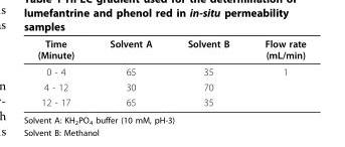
<table><thead><tr><td>Time (Minute)</td><td>Solvent A</td><td>Solvent B</td><td>Flow rate (mL/min)</td></tr></thead><tbody><tr><td>0 - 4</td><td>65</td><td>35</td><td>1</td></tr><tr><td>4 - 12</td><td>30</td><td>70</td><td></td></tr><tr><td>12 - 17</td><td>65</td><td>35</td><td></td></tr></tbody></table>